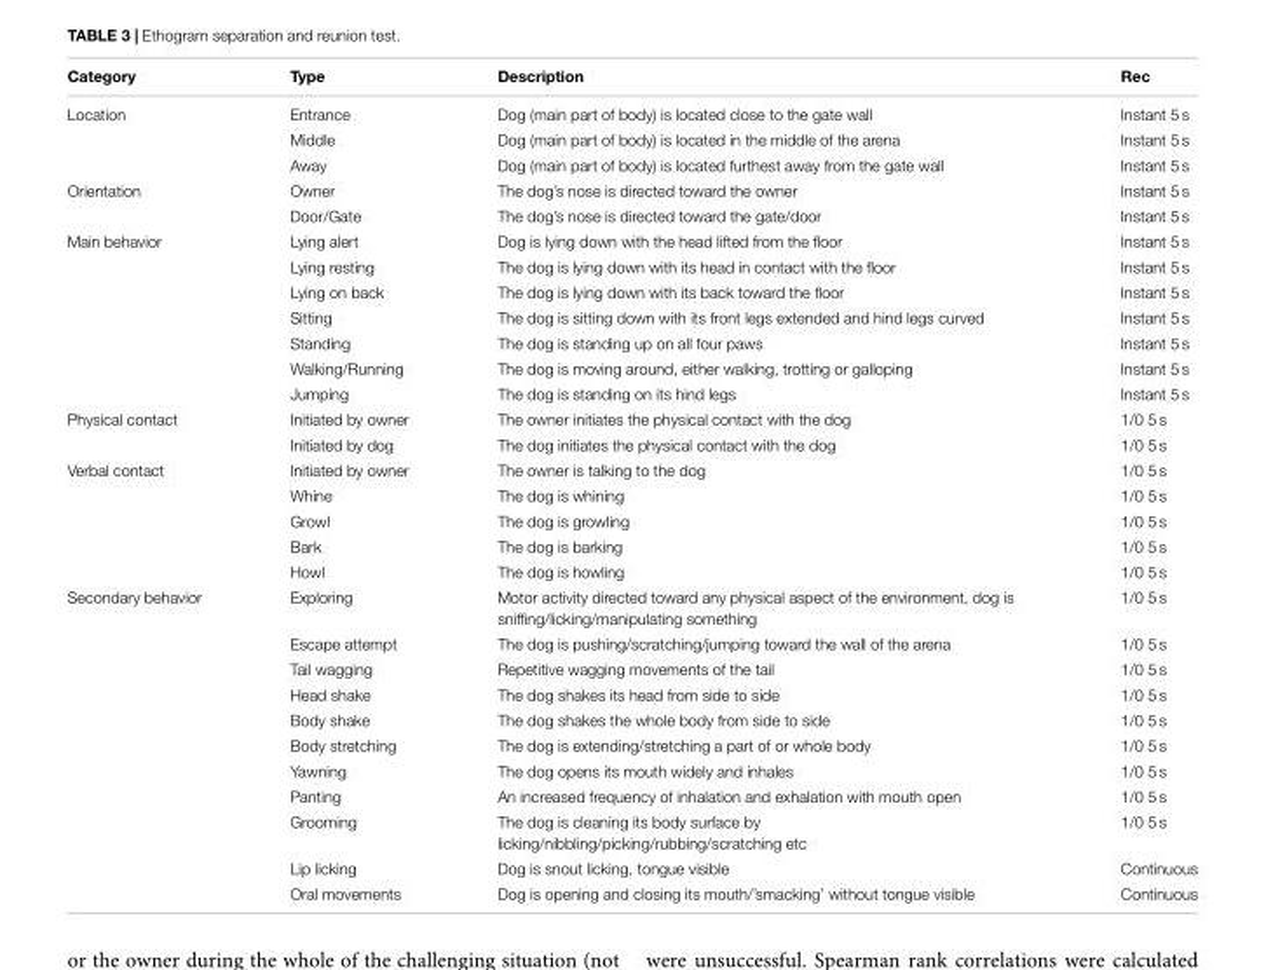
<table><thead><tr><td>Category</td><td>Type</td><td>Description</td><td>Rec</td></tr></thead><tbody><tr><td rowspan="3">Location</td><td>Entrance</td><td>Dog (main part of body) is located close to the gate wall</td><td>Instant 5 s</td></tr><tr><td>Middle</td><td>Dog (main part of body) is located in the middle of the arena</td><td>Instant 5 s</td></tr><tr><td>Away</td><td>Dog (main part of body) is located furthest away from the gate wall</td><td>Instant 5 s</td></tr><tr><td rowspan="2">Orientation</td><td>Owner</td><td>The dog’s nose is directed toward the owner</td><td>Instant 5 s</td></tr><tr><td>Door/Gate</td><td>The dog’s nose is directed toward the gate/door</td><td>Instant 5 s</td></tr><tr><td rowspan="7">Main behavior</td><td>Lying alert</td><td>Dog is lying down with the head lifted from the floor</td><td>Instant 5 s</td></tr><tr><td>Lying resting</td><td>The dog is lying down with its head in contact with the floor</td><td>Instant 5 s</td></tr><tr><td>Lying on back</td><td>The dog is lying down with its back toward the floor</td><td>Instant 5 s</td></tr><tr><td>Sitting</td><td>The dog is sitting down with its front legs extended and hind legs curved</td><td>Instant 5 s</td></tr><tr><td>Standing</td><td>The dog is standing up on all four paws</td><td>Instant 5 s</td></tr><tr><td>Walking/Running</td><td>The dog is moving around, either walking, trotting or galloping</td><td>Instant 5 s</td></tr><tr><td>Jumping</td><td>The dog is standing on its hind legs</td><td>Instant 5 s</td></tr><tr><td rowspan="2">Physical contact</td><td>Initiated by owner</td><td>The owner initiates the physical contact with the dog</td><td>1/0 5 s</td></tr><tr><td>Initiated by dog</td><td>The dog initiates the physical contact with the dog</td><td>1/0 5 s</td></tr><tr><td rowspan="5">Verbal contact</td><td>Initiated by owner</td><td>The owner is talking to the dog</td><td>1/0 5 s</td></tr><tr><td>Whine</td><td>The dog is whining</td><td>1/0 5 s</td></tr><tr><td>Growl</td><td>The dog is growling</td><td>1/0 5 s</td></tr><tr><td>Bark</td><td>The dog is barking</td><td>1/0 5 s</td></tr><tr><td>Howl</td><td>The dog is howling</td><td>1/0 5 s</td></tr><tr><td rowspan="11">Secondary behavior</td><td>Exploring</td><td>Motor activity directed toward any physical aspect of the environment, dog is sniffing/licking/manipulating something</td><td>1/0 5 s</td></tr><tr><td>Escape attempt</td><td>The dog is pushing/scratching/jumping toward the wall of the arena</td><td>1/0 5 s</td></tr><tr><td>Tail wagging</td><td>Repetitive wagging movements of the tail</td><td>1/0 5 s</td></tr><tr><td>Head shake</td><td>The dog shakes its head from side to side</td><td>1/0 5 s</td></tr><tr><td>Body shake</td><td>The dog shakes the whole body from side to side</td><td>1/0 5 s</td></tr><tr><td>Body stretching</td><td>The dog is extending/stretching a part of or whole body</td><td>1/0 5 s</td></tr><tr><td>Yawning</td><td>The dog opens its mouth widely and inhales</td><td>1/0 5 s</td></tr><tr><td>Panting</td><td>An increased frequency of inhalation and exhalation with mouth open</td><td>1/0 5 s</td></tr><tr><td>Grooming</td><td>The dog is cleaning its body surface by licking/nibbling/picking/rubbing/scratching etc</td><td>1/0 5 s</td></tr><tr><td>Lip licking</td><td>Dog is snout licking, tongue visible</td><td>Continuous</td></tr><tr><td>Oral movements</td><td>Dog is opening and closing its mouth/’smacking’ without tongue visible</td><td>Continuous</td></tr></tbody></table>